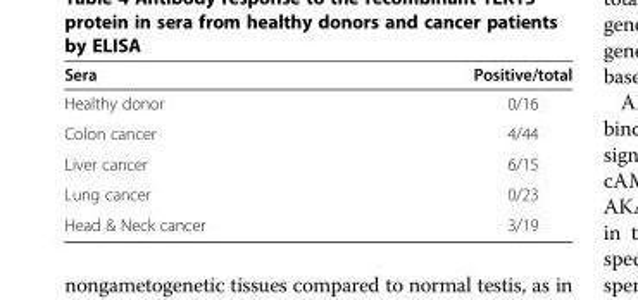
<table><thead><tr><td>Sera</td><td>Positive/total</td></tr></thead><tbody><tr><td>Healthy donor</td><td>0/16</td></tr><tr><td>Colon cancer</td><td>4/44</td></tr><tr><td>Liver cancer</td><td>6/15</td></tr><tr><td>Lung cancer</td><td>0/23</td></tr><tr><td>Head &amp; Neck cancer</td><td>3/19</td></tr></tbody></table>